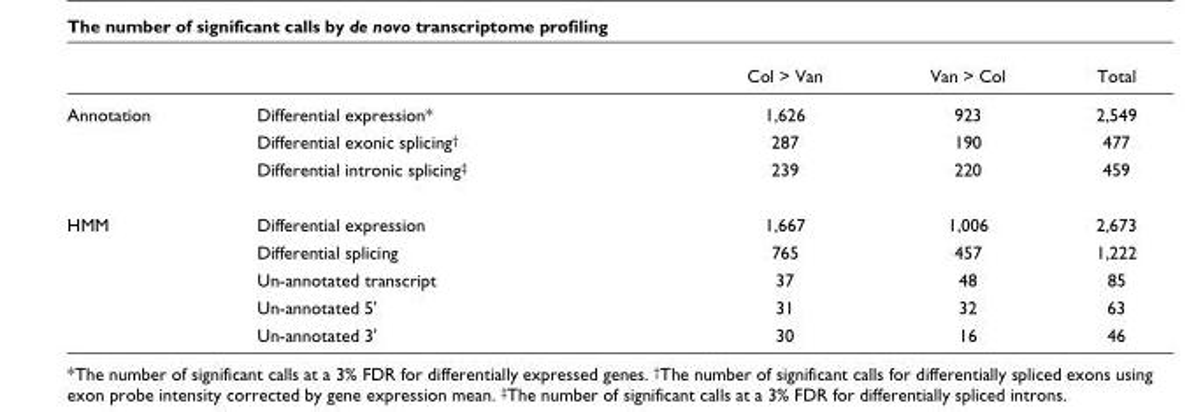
<table><thead><tr><td></td><td></td><td>Col &gt; Van</td><td>Van &gt; Col</td><td>Total</td></tr></thead><tbody><tr><td rowspan="3">Annotation</td><td>Differential expression*</td><td>1,626</td><td>923</td><td>2,549</td></tr><tr><td>Differential exonic splicing<sup>†</sup></td><td>287</td><td>190</td><td>477</td></tr><tr><td>Differential intronic splicing<sup>‡</sup></td><td>239</td><td>220</td><td>459</td></tr><tr><td rowspan="5">HMM</td><td>Differential expression</td><td>1,667</td><td>1,006</td><td>2,673</td></tr><tr><td>Differential splicing</td><td>765</td><td>457</td><td>1,222</td></tr><tr><td>Un-annotated transcript</td><td>37</td><td>48</td><td>85</td></tr><tr><td>Un-annotated 5&#x27;</td><td>31</td><td>32</td><td>63</td></tr><tr><td>Un-annotated 3&#x27;</td><td>30</td><td>16</td><td>46</td></tr></tbody></table>